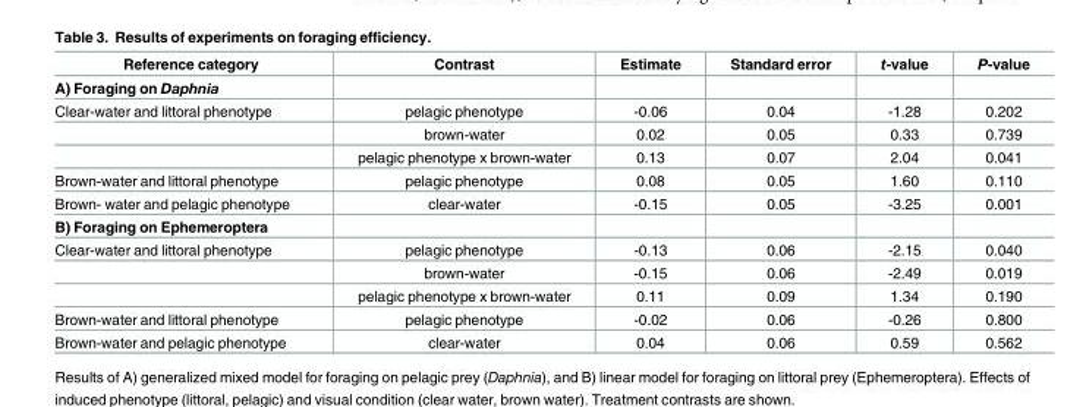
<table><thead><tr><td>Reference category</td><td>Contrast</td><td>Estimate</td><td>Standard error</td><td>t-value</td><td>P-value</td></tr></thead><tbody><tr><td colspan="6">A) Foraging on Daphnia</td></tr><tr><td rowspan="3">Clear-water and littoral phenotype</td><td>pelagic phenotype</td><td>-0.06</td><td>0.04</td><td>-1.28</td><td>0.202</td></tr><tr><td>brown-water</td><td>0.02</td><td>0.05</td><td>0.33</td><td>0.739</td></tr><tr><td>pelagic phenotype x brown-water</td><td>0.13</td><td>0.07</td><td>2.04</td><td>0.041</td></tr><tr><td>Brown-water and littoral phenotype</td><td>pelagic phenotype</td><td>0.08</td><td>0.05</td><td>1.60</td><td>0.110</td></tr><tr><td>Brown- water and pelagic phenotype</td><td>clear-water</td><td>-0.15</td><td>0.05</td><td>-3.25</td><td>0.001</td></tr><tr><td colspan="6">B) Foraging on Ephemeroptera</td></tr><tr><td rowspan="3">Clear-water and littoral phenotype</td><td>pelagic phenotype</td><td>-0.13</td><td>0.06</td><td>-2.15</td><td>0.040</td></tr><tr><td>brown-water</td><td>-0.15</td><td>0.06</td><td>-2.49</td><td>0.019</td></tr><tr><td>pelagic phenotype x brown-water</td><td>0.11</td><td>0.09</td><td>1.34</td><td>0.190</td></tr><tr><td>Brown-water and littoral phenotype</td><td>pelagic phenotype</td><td>-0.02</td><td>0.06</td><td>-0.26</td><td>0.800</td></tr><tr><td>Brown-water and pelagic phenotype</td><td>clear-water</td><td>0.04</td><td>0.06</td><td>0.59</td><td>0.562</td></tr></tbody></table>